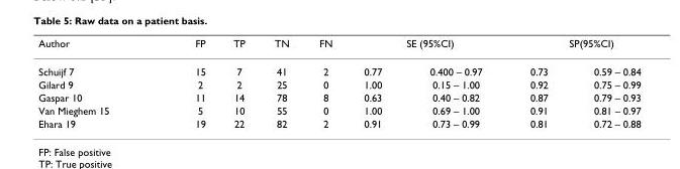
<table><thead><tr><td rowspan="2">Author Schuijf 7</td><td rowspan="2">FP 15</td><td rowspan="2">TP 7</td><td rowspan="2">TN 41</td><td rowspan="2">FN 2</td><td colspan="2">SE (95%CI)</td><td colspan="2">SP(95%CI)</td></tr><tr><td>0.77</td><td>0.400 – 0.97</td><td>0.73</td><td>0.59 – 0.84</td></tr></thead><tbody><tr><td>Gilard 9</td><td>2</td><td>2</td><td>25</td><td>0</td><td>1.00</td><td>0.15 – 1.00</td><td>0.92</td><td>0.75 – 0.99</td></tr><tr><td>Gaspar 10</td><td>11</td><td>14</td><td>78</td><td>8</td><td>0.63</td><td>0.40 – 0.82</td><td>0.87</td><td>0.79 – 0.93</td></tr><tr><td>Van Mieghem 15</td><td>5</td><td>10</td><td>55</td><td>0</td><td>1.00</td><td>0.69 – 1.00</td><td>0.91</td><td>0.81 – 0.97</td></tr><tr><td>Ehara 19</td><td>19</td><td>22</td><td>82</td><td>2</td><td>0.91</td><td>0.73 – 0.99</td><td>0.81</td><td>0.72 – 0.88</td></tr></tbody></table>